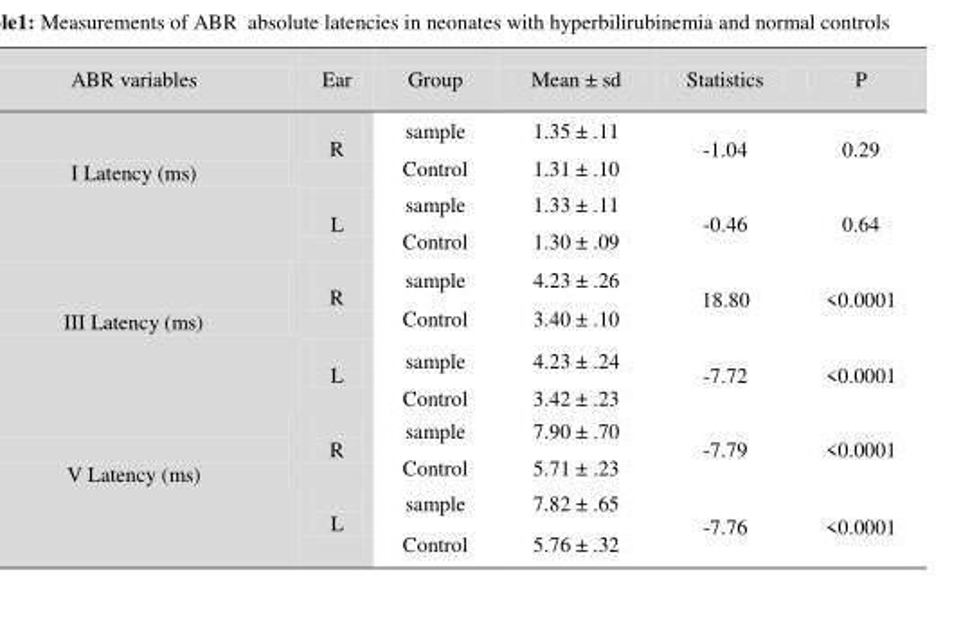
<table><thead><tr><td>ABR variables</td><td>Ear</td><td>Group</td><td>Mean ± sd</td><td>Statistics</td><td>P</td></tr></thead><tbody><tr><td rowspan="4">I Latency (ms)</td><td rowspan="2">R</td><td>sample</td><td>1.35 ± .11</td><td rowspan="2">-1.04</td><td rowspan="2">0.29</td></tr><tr><td>Control</td><td>1.31 ± .10</td></tr><tr><td rowspan="2">L</td><td>sample</td><td>1.33 ± .11</td><td rowspan="2">-0.46</td><td rowspan="2">0.64</td></tr><tr><td>Control</td><td>1.30 ± .09</td></tr><tr><td rowspan="4">III Latency (ms)</td><td rowspan="2">R</td><td>sample</td><td>4.23 ± .26</td><td rowspan="2">18.80</td><td rowspan="2">&lt;0.0001</td></tr><tr><td>Control</td><td>3.40 ± .10</td></tr><tr><td rowspan="2">L</td><td>sample</td><td>4.23 ± .24</td><td rowspan="2">-7.72</td><td rowspan="2">&lt;0.0001</td></tr><tr><td>Control</td><td>3.42 ± .23</td></tr><tr><td rowspan="4">V Latency (ms)</td><td rowspan="2">R</td><td>sample</td><td>7.90 ± .70</td><td rowspan="2">-7.79</td><td rowspan="2">&lt;0.0001</td></tr><tr><td>Control</td><td>5.71 ± .23</td></tr><tr><td rowspan="2">L</td><td>sample</td><td>7.82 ± .65</td><td rowspan="2">-7.76</td><td rowspan="2">&lt;0.0001</td></tr><tr><td>Control</td><td>5.76 ± .32</td></tr></tbody></table>